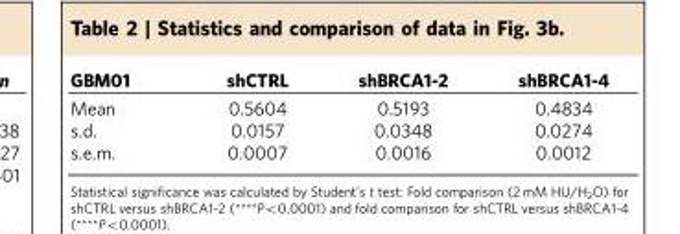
<table><thead><tr><td>GBM01</td><td>shCTRL</td><td>shBRCA1-2</td><td>shBRCA1-4</td></tr></thead><tbody><tr><td>Mean</td><td>0.5604</td><td>0.5193</td><td>0.4834</td></tr><tr><td>s.d.</td><td>0.0157</td><td>0.0348</td><td>0.0274</td></tr><tr><td>s.e.m.</td><td>0.0007</td><td>0.0016</td><td>0.0012</td></tr></tbody></table>